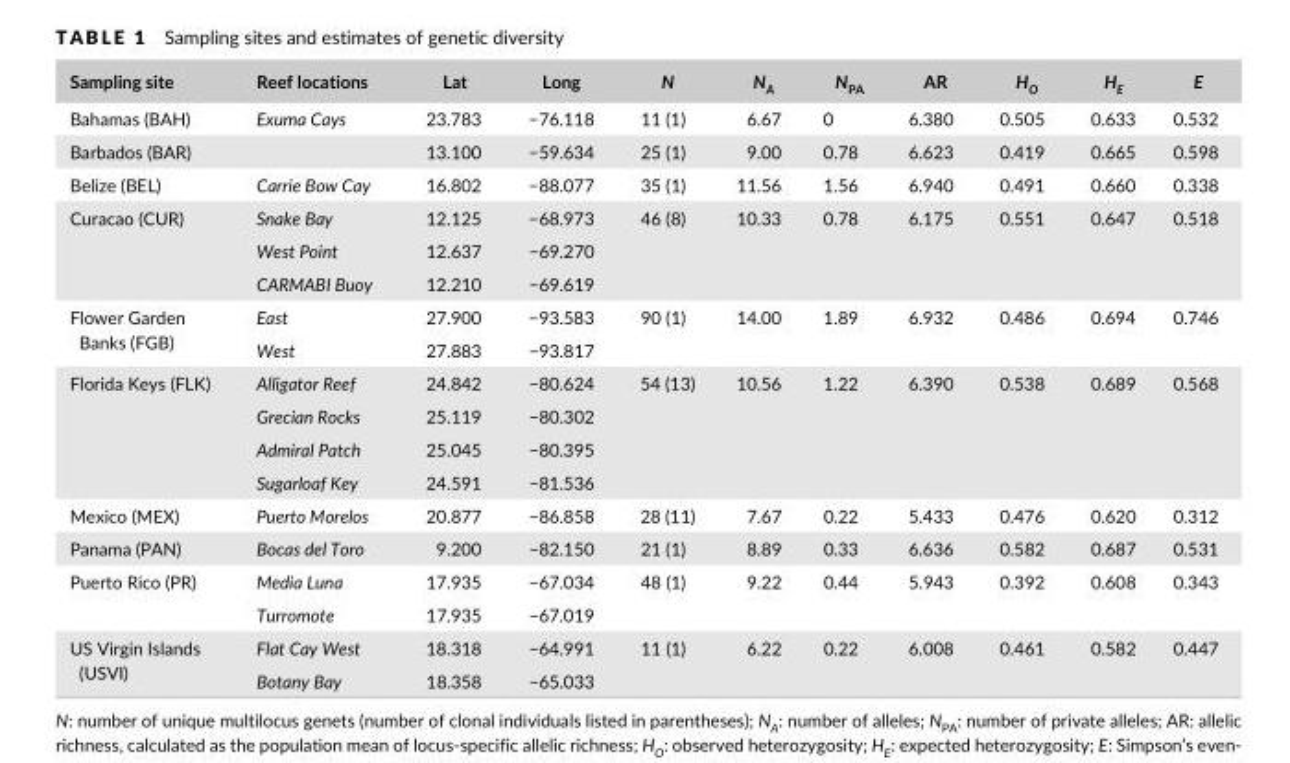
<table><thead><tr><td>Sampling site</td><td>Reef locations</td><td>Lat</td><td>Long</td><td>N</td><td>N<sub>A</sub></td><td>N<sub>PA</sub></td><td>AR</td><td>H<sub>O</sub></td><td>H<sub>E</sub></td><td>E</td></tr></thead><tbody><tr><td>Bahamas (BAH)</td><td>Exuma Cays</td><td>23.783</td><td>−76.118</td><td>11 (1)</td><td>6.67</td><td>0</td><td>6.380</td><td>0.505</td><td>0.633</td><td>0.532</td></tr><tr><td>Barbados (BAR)</td><td></td><td>13.100</td><td>−59.634</td><td>25 (1)</td><td>9.00</td><td>0.78</td><td>6.623</td><td>0.419</td><td>0.665</td><td>0.598</td></tr><tr><td>Belize (BEL)</td><td>Carrie Bow Cay</td><td>16.802</td><td>−88.077</td><td>35 (1)</td><td>11.56</td><td>1.56</td><td>6.940</td><td>0.491</td><td>0.660</td><td>0.338</td></tr><tr><td rowspan="3">Curacao (CUR)</td><td>Snake Bay</td><td>12.125</td><td>−68.973</td><td rowspan="3">46 (8)</td><td rowspan="3">10.33</td><td rowspan="3">0.78</td><td rowspan="3">6.175</td><td rowspan="3">0.551</td><td rowspan="3">0.647</td><td rowspan="3">0.518</td></tr><tr><td>West Point</td><td>12.637</td><td>−69.270</td></tr><tr><td>CARMABI Buoy</td><td>12.210</td><td>−69.619</td></tr><tr><td rowspan="2">Flower Garden Banks (FGB)</td><td>East</td><td>27.900</td><td>−93.583</td><td rowspan="2">90 (1)</td><td rowspan="2">14.00</td><td rowspan="2">1.89</td><td rowspan="2">6.932</td><td rowspan="2">0.486</td><td rowspan="2">0.694</td><td rowspan="2">0.746</td></tr><tr><td>West</td><td>27.883</td><td>−93.817</td></tr><tr><td rowspan="4">Florida Keys (FLK)</td><td>Alligator Reef</td><td>24.842</td><td>−80.624</td><td rowspan="4">54 (13)</td><td rowspan="4">10.56</td><td rowspan="4">1.22</td><td rowspan="4">6.390</td><td rowspan="4">0.538</td><td rowspan="4">0.689</td><td rowspan="4">0.568</td></tr><tr><td>Grecian Rocks</td><td>25.119</td><td>−80.302</td></tr><tr><td>Admiral Patch</td><td>25.045</td><td>−80.395</td></tr><tr><td>Sugarloaf Key</td><td>24.591</td><td>−81.536</td></tr><tr><td>Mexico (MEX)</td><td>Puerto Morelos</td><td>20.877</td><td>−86.858</td><td>28 (11)</td><td>7.67</td><td>0.22</td><td>5.433</td><td>0.476</td><td>0.620</td><td>0.312</td></tr><tr><td>Panama (PAN)</td><td>Bocas del Toro</td><td>9.200</td><td>−82.150</td><td>21 (1)</td><td>8.89</td><td>0.33</td><td>6.636</td><td>0.582</td><td>0.687</td><td>0.531</td></tr><tr><td rowspan="2">Puerto Rico (PR)</td><td>Media Luna</td><td>17.935</td><td>−67.034</td><td rowspan="2">48 (1)</td><td rowspan="2">9.22</td><td rowspan="2">0.44</td><td rowspan="2">5.943</td><td rowspan="2">0.392</td><td rowspan="2">0.608</td><td rowspan="2">0.343</td></tr><tr><td>Turromote</td><td>17.935</td><td>−67.019</td></tr><tr><td rowspan="2">US Virgin Islands (USVI)</td><td>Flat Cay West</td><td>18.318</td><td>−64.991</td><td rowspan="2">11 (1)</td><td rowspan="2">6.22</td><td rowspan="2">0.22</td><td rowspan="2">6.008</td><td rowspan="2">0.461</td><td rowspan="2">0.582</td><td rowspan="2">0.447</td></tr><tr><td>Botany Bay</td><td>18.358</td><td>−65.033</td></tr></tbody></table>